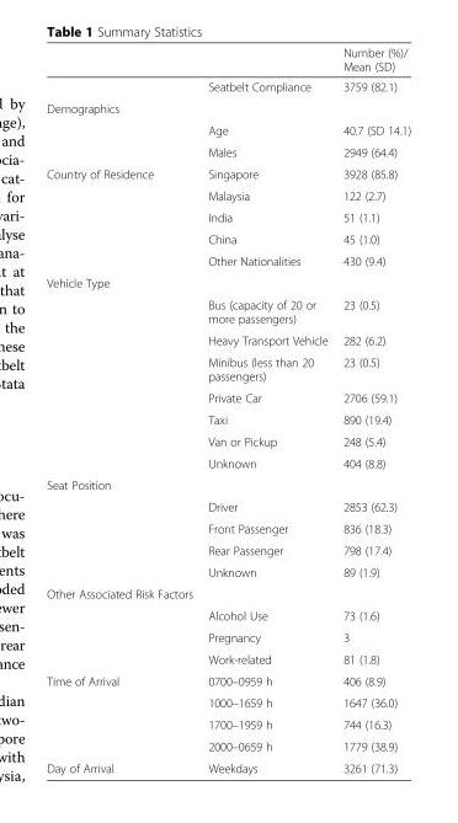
<table><thead><tr><td></td><td></td><td>Number (%)/ Mean (SD)</td></tr></thead><tbody><tr><td></td><td>Seatbelt Compliance</td><td>3759 (82.1)</td></tr><tr><td colspan="3">Demographics</td></tr><tr><td></td><td>Age</td><td>40.7 (SD 14.1)</td></tr><tr><td></td><td>Males</td><td>2949 (64.4)</td></tr><tr><td rowspan="5">Country of Residence</td><td>Singapore</td><td>3928 (85.8)</td></tr><tr><td>Malaysia</td><td>122 (2.7)</td></tr><tr><td>India</td><td>51 (1.1)</td></tr><tr><td>China</td><td>45 (1.0)</td></tr><tr><td>Other Nationalities</td><td>430 (9.4)</td></tr><tr><td colspan="3">Vehicle Type</td></tr><tr><td rowspan="7"></td><td>Bus (capacity of 20 or more passengers)</td><td>23 (0.5)</td></tr><tr><td>Heavy Transport Vehicle</td><td>282 (6.2)</td></tr><tr><td>Minibus (less than 20 passengers)</td><td>23 (0.5)</td></tr><tr><td>Private Car</td><td>2706 (59.1)</td></tr><tr><td>Taxi</td><td>890 (19.4)</td></tr><tr><td>Van or Pickup</td><td>248 (5.4)</td></tr><tr><td>Unknown</td><td>404 (8.8)</td></tr><tr><td colspan="3">Seat Position</td></tr><tr><td rowspan="4"></td><td>Driver</td><td>2853 (62.3)</td></tr><tr><td>Front Passenger</td><td>836 (18.3)</td></tr><tr><td>Rear Passenger</td><td>798 (17.4)</td></tr><tr><td>Unknown</td><td>89 (1.9)</td></tr><tr><td colspan="3">Other Associated Risk Factors</td></tr><tr><td></td><td>Alcohol Use</td><td>73 (1.6)</td></tr><tr><td></td><td>Pregnancy</td><td>3</td></tr><tr><td></td><td>Work-related</td><td>81 (1.8)</td></tr><tr><td rowspan="4">Time of Arrival</td><td>0700–0959 h</td><td>406 (8.9)</td></tr><tr><td>1000–1659 h</td><td>1647 (36.0)</td></tr><tr><td>1700–1959 h</td><td>744 (16.3)</td></tr><tr><td>2000–0659 h</td><td>1779 (38.9)</td></tr><tr><td>Day of Arrival</td><td>Weekdays</td><td>3261 (71.3)</td></tr></tbody></table>